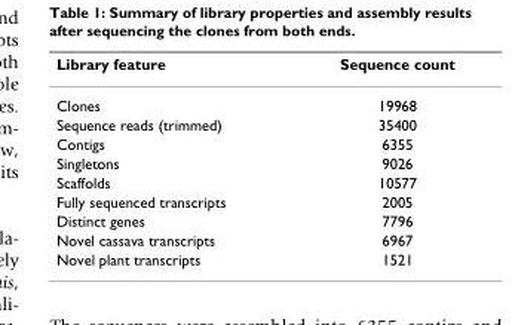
<table><thead><tr><td>Library feature</td><td>Sequence count</td></tr></thead><tbody><tr><td>Clones</td><td>19968</td></tr><tr><td>Sequence reads (trimmed)</td><td>35400</td></tr><tr><td>Contigs</td><td>6355</td></tr><tr><td>Singletons</td><td>9026</td></tr><tr><td>Scaffolds</td><td>10577</td></tr><tr><td>Fully sequenced transcripts</td><td>2005</td></tr><tr><td>Distinct genes</td><td>7796</td></tr><tr><td>Novel cassava transcripts</td><td>6967</td></tr><tr><td>Novel plant transcripts</td><td>1521</td></tr></tbody></table>